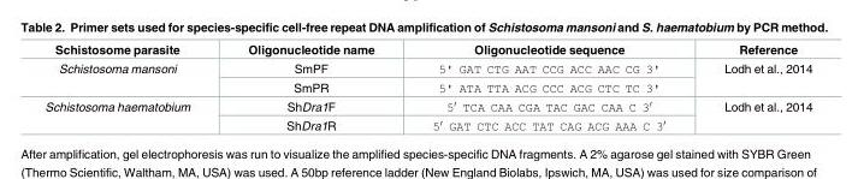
<table><thead><tr><td>Schistosome parasite</td><td>Oligonucleotide name</td><td>Oligonucleotide sequence</td><td>Reference</td></tr></thead><tbody><tr><td rowspan="2">Schistosoma mansoni</td><td>SmPF</td><td>5&#x27; GAT CTG AAT CCG ACC AAC CG 3&#x27;</td><td rowspan="2">Lodh et al., 2014</td></tr><tr><td>SmPR</td><td>5&#x27; ATA TTA ACG CCC ACG CTC TC 3&#x27;</td></tr><tr><td rowspan="2">Schistosoma haematobium</td><td>ShDra1F</td><td>5′ TCA CAA CGA TAC GAC CAA C 3′</td><td rowspan="2">Lodh et al., 2014</td></tr><tr><td>ShDra1R</td><td>5′ GAT CTC ACC TAT CAG ACG AAA C 3′</td></tr></tbody></table>